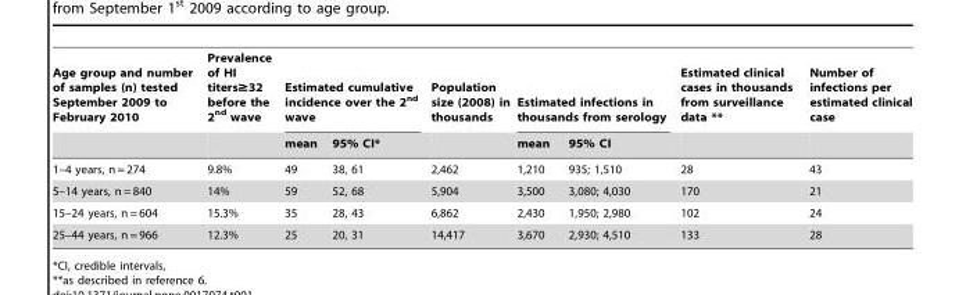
<table><thead><tr><td rowspan="2">Age group and number of samples (n) tested September 2009 to February 2010</td><td rowspan="2">Prevalence of HI titers≥32 before the 2<sup>nd</sup> wave</td><td colspan="2">Estimated cumulative incidence over the 2<sup>nd</sup> wave</td><td rowspan="2">Population size (2008) in thousands</td><td colspan="2">Estimated infections in thousands from serology</td><td rowspan="2">Estimated clinical cases in thousands from surveillance data **</td><td rowspan="2">Number of infections per estimated clinical case</td></tr><tr><td>mean</td><td>95% CI*</td><td>mean</td><td>95% CI</td></tr></thead><tbody><tr><td>1–4 years, n = 274</td><td>9.8%</td><td>49</td><td>38, 61</td><td>2,462</td><td>1,210</td><td>935; 1,510</td><td>28</td><td>43</td></tr><tr><td>5–14 years, n = 840</td><td>14%</td><td>59</td><td>52, 68</td><td>5,904</td><td>3,500</td><td>3,080; 4,030</td><td>170</td><td>21</td></tr><tr><td>15–24 years, n = 604</td><td>15.3%</td><td>35</td><td>28, 43</td><td>6,862</td><td>2,430</td><td>1,950; 2,980</td><td>102</td><td>24</td></tr><tr><td>25–44 years, n = 966</td><td>12.3%</td><td>25</td><td>20, 31</td><td>14,417</td><td>3,670</td><td>2,930; 4,510</td><td>133</td><td>28</td></tr></tbody></table>